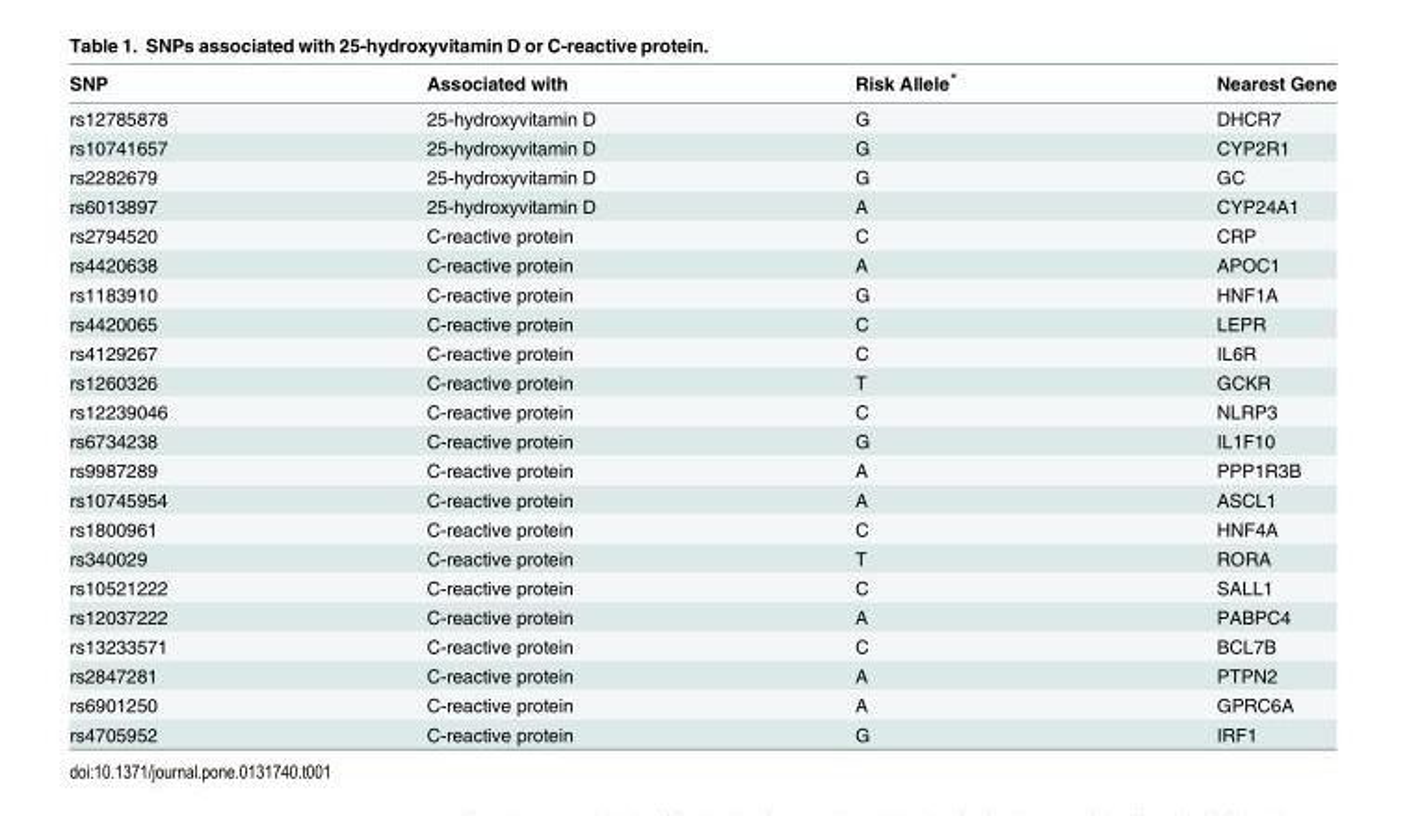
<table><thead><tr><td>SNP</td><td>Associated with</td><td>Risk Allele*</td><td>Nearest Gene</td></tr></thead><tbody><tr><td>rs12785878</td><td>25-hydroxyvitamin D</td><td>G</td><td>DHCR7</td></tr><tr><td>rs10741657</td><td>25-hydroxyvitamin D</td><td>G</td><td>CYP2R1</td></tr><tr><td>rs2282679</td><td>25-hydroxyvitamin D</td><td>G</td><td>GC</td></tr><tr><td>rs6013897</td><td>25-hydroxyvitamin D</td><td>A</td><td>CYP24A1</td></tr><tr><td>rs2794520</td><td>C-reactive protein</td><td>C</td><td>CRP</td></tr><tr><td>rs4420638</td><td>C-reactive protein</td><td>A</td><td>APOC1</td></tr><tr><td>rs1183910</td><td>C-reactive protein</td><td>G</td><td>HNF1A</td></tr><tr><td>rs4420065</td><td>C-reactive protein</td><td>C</td><td>LEPR</td></tr><tr><td>rs4129267</td><td>C-reactive protein</td><td>C</td><td>IL6R</td></tr><tr><td>rs1260326</td><td>C-reactive protein</td><td>T</td><td>GCKR</td></tr><tr><td>rs12239046</td><td>C-reactive protein</td><td>C</td><td>NLRP3</td></tr><tr><td>rs6734238</td><td>C-reactive protein</td><td>G</td><td>IL1F10</td></tr><tr><td>rs9987289</td><td>C-reactive protein</td><td>A</td><td>PPP1R3B</td></tr><tr><td>rs10745954</td><td>C-reactive protein</td><td>A</td><td>ASCL1</td></tr><tr><td>rs1800961</td><td>C-reactive protein</td><td>C</td><td>HNF4A</td></tr><tr><td>rs340029</td><td>C-reactive protein</td><td>T</td><td>RORA</td></tr><tr><td>rs10521222</td><td>C-reactive protein</td><td>C</td><td>SALL1</td></tr><tr><td>rs12037222</td><td>C-reactive protein</td><td>A</td><td>PABPC4</td></tr><tr><td>rs13233571</td><td>C-reactive protein</td><td>C</td><td>BCL7B</td></tr><tr><td>rs2847281</td><td>C-reactive protein</td><td>A</td><td>PTPN2</td></tr><tr><td>rs6901250</td><td>C-reactive protein</td><td>A</td><td>GPRC6A</td></tr><tr><td>rs4705952</td><td>C-reactive protein</td><td>G</td><td>IRF1</td></tr></tbody></table>